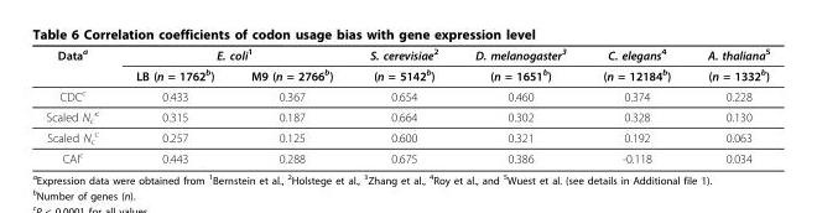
<table><thead><tr><td rowspan="2">Data<sup>a</sup></td><td colspan="2">E. coli<sup>1</sup></td><td rowspan="2">S. cerevisiae<sup>2</sup> (n = 5142<sup>b</sup>)</td><td rowspan="2">D. melanogaster<sup>3</sup> (n = 1651<sup>b</sup>)</td><td rowspan="2">C. elegans<sup>4</sup> (n = 12184<sup>b</sup>)</td><td rowspan="2">A. thaliana<sup>5</sup> (n = 1332<sup>b</sup>)</td></tr><tr><td>LB (n = 1762<sup>b</sup>)</td><td>M9 (n = 2766<sup>b</sup>)</td></tr></thead><tbody><tr><td>CDC<sup>c</sup></td><td>0.433</td><td>0.367</td><td>0.654</td><td>0.460</td><td>0.374</td><td>0.228</td></tr><tr><td>Scaled N<sub>c</sub>’<sup>c</sup></td><td>0.315</td><td>0.187</td><td>0.664</td><td>0.302</td><td>0.328</td><td>0.130</td></tr><tr><td>Scaled N<sub>c</sub> <sup>c</sup></td><td>0.257</td><td>0.125</td><td>0.600</td><td>0.321</td><td>0.192</td><td>0.063</td></tr><tr><td>CAI<sup>c</sup></td><td>0.443</td><td>0.288</td><td>0.675</td><td>0.386</td><td>-0.118</td><td>0.034</td></tr></tbody></table>